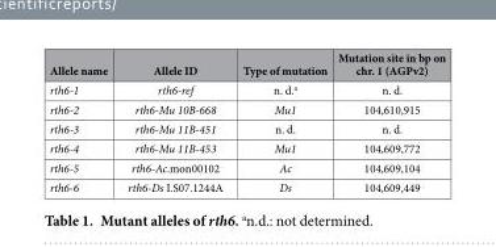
<table><thead><tr><td>Allele name</td><td>Allele ID</td><td>Type of mutation</td><td>Mutation site in bp on chr. 1 (AGPv2)</td></tr></thead><tbody><tr><td>rth6-1</td><td>rth6-ref</td><td>n. d.<sup>a</sup></td><td>n. d.</td></tr><tr><td>rth6-2</td><td>rth6-Mu 10B-668</td><td>Mu1</td><td>104,610,915</td></tr><tr><td>rth6-3</td><td>rth6-Mu 11B-451</td><td>n. d.</td><td>n. d.</td></tr><tr><td>rth6-4</td><td>rth6-Mu 11B-453</td><td>Mu1</td><td>104,609,772</td></tr><tr><td>rth6-5</td><td>rth6-Ac.mon00102</td><td>Ac</td><td>104,609,104</td></tr><tr><td>rth6-6</td><td>rth6-Ds I.S07.1244A</td><td>Ds</td><td>104,609,449</td></tr></tbody></table>